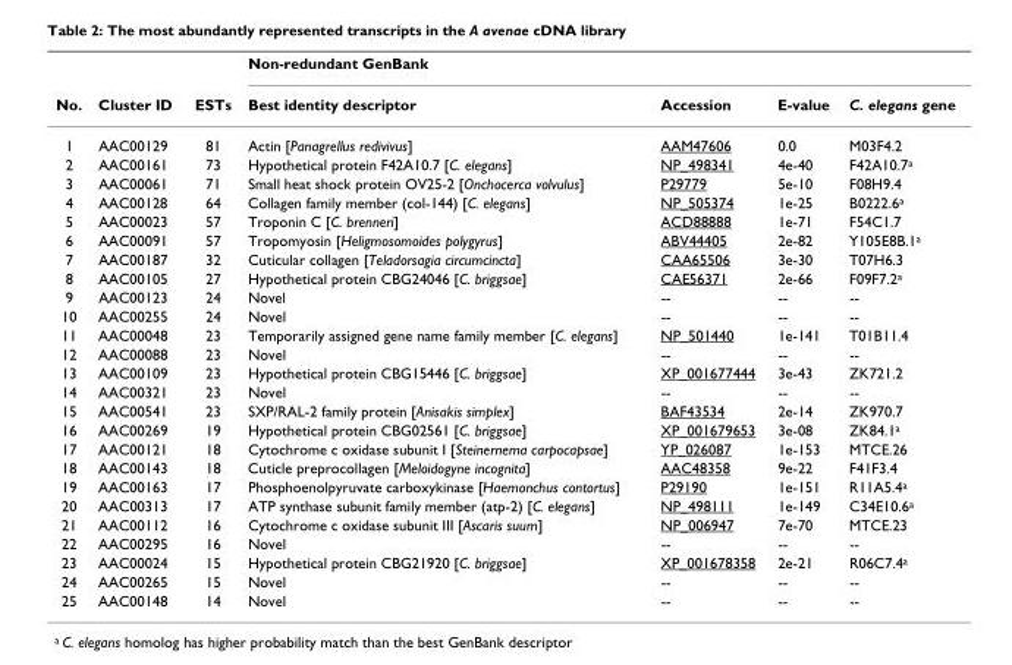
<table><thead><tr><td rowspan="2">No.</td><td rowspan="2">Cluster ID</td><td rowspan="2">ESTs</td><td colspan="4">Non-redundant GenBank</td></tr><tr><td>Best identity descriptor</td><td>Accession</td><td>E-value</td><td>C. elegans gene</td></tr></thead><tbody><tr><td>1</td><td>AAC00129</td><td>81</td><td>Actin [Panagrellus redivivus]</td><td>AAM47606</td><td>0.0</td><td>M03F4.2</td></tr><tr><td>2</td><td>AAC00161</td><td>73</td><td>Hypothetical protein F42A10.7 [C. elegans]</td><td>NP_498341</td><td>4e-40</td><td>F42A10.7<sup>a</sup></td></tr><tr><td>3</td><td>AAC00061</td><td>71</td><td>Small heat shock protein OV25-2 [Onchocerca volvulus]</td><td>P29779</td><td>5e-10</td><td>F08H9.4</td></tr><tr><td>4</td><td>AAC00128</td><td>64</td><td>Collagen family member (col-144) [C. elegans]</td><td>NP_505374</td><td>1e-25</td><td>B0222.6<sup>a</sup></td></tr><tr><td>5</td><td>AAC00023</td><td>57</td><td>Troponin C [C. brenneri]</td><td>ACD88888</td><td>1e-71</td><td>F54C1.7</td></tr><tr><td>6</td><td>AAC00091</td><td>57</td><td>Tropomyosin [Heligmosomoides polygyrus]</td><td>ABV44405</td><td>2e-82</td><td>Y105E8B.1<sup>a</sup></td></tr><tr><td>7</td><td>AAC00187</td><td>32</td><td>Cuticular collagen [Teladorsagia circumcincta]</td><td>CAA65506</td><td>3e-30</td><td>T07H6.3</td></tr><tr><td>8</td><td>AAC00105</td><td>27</td><td>Hypothetical protein CBG24046 [C. briggsae]</td><td>CAE56371</td><td>2e-66</td><td>F09F7.2<sup>a</sup></td></tr><tr><td>9</td><td>AAC00123</td><td>24</td><td>Novel</td><td>--</td><td>--</td><td>--</td></tr><tr><td>10</td><td>AAC00255</td><td>24</td><td>Novel</td><td>--</td><td>--</td><td>--</td></tr><tr><td>11</td><td>AAC00048</td><td>23</td><td>Temporarily assigned gene name family member [C. elegans]</td><td>NP_501440</td><td>1e-141</td><td>T01B11.4</td></tr><tr><td>12</td><td>AAC00088</td><td>23</td><td>Novel</td><td>--</td><td>--</td><td>--</td></tr><tr><td>13</td><td>AAC00109</td><td>23</td><td>Hypothetical protein CBG15446 [C. briggsae]</td><td>XP_001677444</td><td>3e-43</td><td>ZK721.2</td></tr><tr><td>14</td><td>AAC00321</td><td>23</td><td>Novel</td><td>--</td><td>--</td><td>--</td></tr><tr><td>15</td><td>AAC00541</td><td>23</td><td>SXP/RAL-2 family protein [Anisakis simplex]</td><td>BAF43534</td><td>2e-14</td><td>ZK970.7</td></tr><tr><td>16</td><td>AAC00269</td><td>19</td><td>Hypothetical protein CBG02561 [C. briggsae]</td><td>XP_001679653</td><td>3e-08</td><td>ZK84.1<sup>a</sup></td></tr><tr><td>17</td><td>AAC00121</td><td>18</td><td>Cytochrome c oxidase subunit I [Steinernema carpocapsae]</td><td>YP_026087</td><td>1e-153</td><td>MTCE.26</td></tr><tr><td>18</td><td>AAC00143</td><td>18</td><td>Cuticle preprocollagen [Meloidogyne incognita]</td><td>AAC48358</td><td>9e-22</td><td>F41F3.4</td></tr><tr><td>19</td><td>AAC00163</td><td>17</td><td>Phosphoenolpyruvate carboxykinase [Haemonchus contortus]</td><td>P29190</td><td>1e-151</td><td>R11A5.4<sup>a</sup></td></tr><tr><td>20</td><td>AAC00313</td><td>17</td><td>ATP synthase subunit family member (atp-2) [C. elegans]</td><td>NP_498111</td><td>1e-149</td><td>C34E10.6<sup>a</sup></td></tr><tr><td>21</td><td>AAC00112</td><td>16</td><td>Cytochrome c oxidase subunit III [Ascaris suum]</td><td>NP_006947</td><td>7e-70</td><td>MTCE.23</td></tr><tr><td>22</td><td>AAC00295</td><td>16</td><td>Novel</td><td>--</td><td>--</td><td>--</td></tr><tr><td>23</td><td>AAC00024</td><td>15</td><td>Hypothetical protein CBG21920 [C. briggsae]</td><td>XP_001678358</td><td>2e-21</td><td>R06C7.4<sup>a</sup></td></tr><tr><td>24</td><td>AAC00265</td><td>15</td><td>Novel</td><td>--</td><td>--</td><td>--</td></tr><tr><td>25</td><td>AAC00148</td><td>14</td><td>Novel</td><td>--</td><td>--</td><td>--</td></tr></tbody></table>